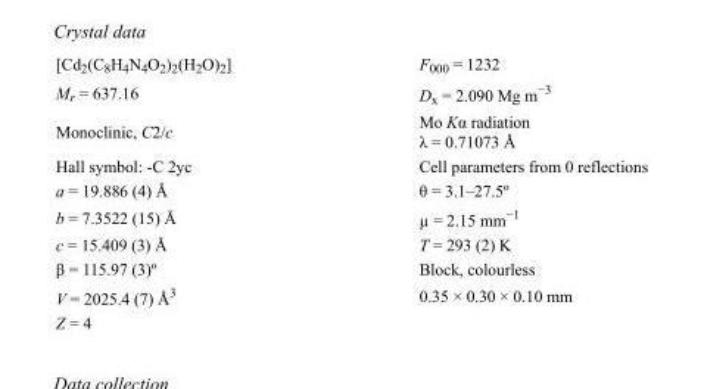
<table><tbody><tr><td>[Cd<sub>2</sub>(C<sub>8</sub>H<sub>4</sub>N<sub>4</sub>O<sub>2</sub>)<sub>2</sub>(H<sub>2</sub>O)<sub>2</sub>]</td><td>F<sub>000</sub> = 1232</td></tr><tr><td>M<sub>r</sub> = 637.16</td><td>D<sub>x</sub> = 2.090 Mg m<sup>−3</sup></td></tr><tr><td>Monoclinic, C2/c</td><td>Mo Kα radiation λ = 0.71073 Å</td></tr><tr><td>Hall symbol: -C 2yc</td><td>Cell parameters from 0 reflections</td></tr><tr><td>a = 19.886 (4) Å</td><td>θ = 3.1–27.5º</td></tr><tr><td>b = 7.3522 (15) Å</td><td>µ = 2.15 mm<sup>−1</sup></td></tr><tr><td>c = 15.409 (3) Å</td><td>T = 293 (2) K</td></tr><tr><td>β = 115.97 (3)º</td><td>Block, colourless</td></tr><tr><td>V = 2025.4 (7) Å<sup>3</sup></td><td>0.35 × 0.30 × 0.10 mm</td></tr><tr><td>Z = 4</td><td></td></tr></tbody></table>